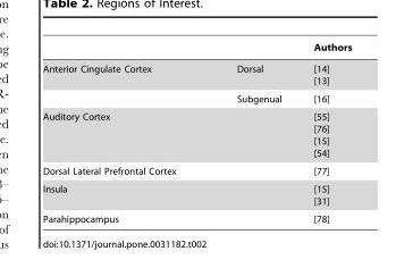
<table><thead><tr><td></td><td></td><td>Authors</td></tr></thead><tbody><tr><td rowspan="2">Anterior Cingulate Cortex</td><td>Dorsal</td><td>[14] [13]</td></tr><tr><td>Subgenual</td><td>[16]</td></tr><tr><td>Auditory Cortex</td><td></td><td>[55] [76] [15] [54]</td></tr><tr><td>Dorsal Lateral Prefrontal Cortex</td><td></td><td>[77]</td></tr><tr><td>Insula</td><td></td><td>[15] [31]</td></tr><tr><td>Parahippocampus</td><td></td><td>[78]</td></tr></tbody></table>